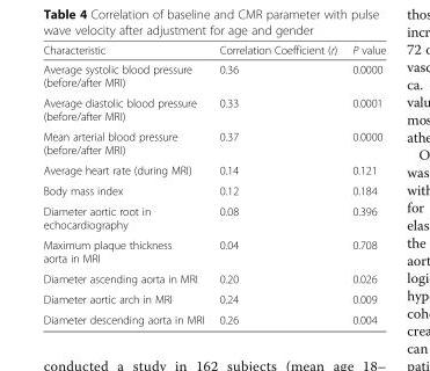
<table><thead><tr><td>Characteristic</td><td>Correlation Coefficient (r)</td><td>P value</td></tr></thead><tbody><tr><td>Average systolic blood pressure (before/after MRI)</td><td>0.36</td><td>0.0000</td></tr><tr><td>Average diastolic blood pressure (before/after MRI)</td><td>0.33</td><td>0.0001</td></tr><tr><td>Mean arterial blood pressure (before/after MRI)</td><td>0.37</td><td>0.0000</td></tr><tr><td>Average heart rate (during MRI)</td><td>0.14</td><td>0.121</td></tr><tr><td>Body mass index</td><td>0.12</td><td>0.184</td></tr><tr><td>Diameter aortic root in echocardiography</td><td>0.08</td><td>0.396</td></tr><tr><td>Maximum plaque thickness aorta in MRI</td><td>0.04</td><td>0.708</td></tr><tr><td>Diameter ascending aorta in MRI</td><td>0.20</td><td>0.026</td></tr><tr><td>Diameter aortic arch in MRI</td><td>0.24</td><td>0.009</td></tr><tr><td>Diameter descending aorta in MRI</td><td>0.26</td><td>0.004</td></tr></tbody></table>